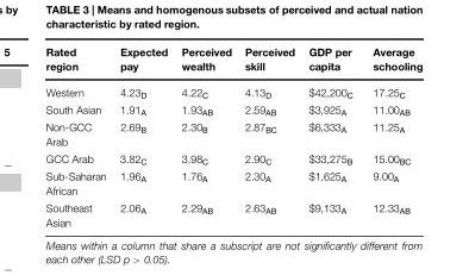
<table><thead><tr><td>Rated region</td><td>Expected pay</td><td>Perceived wealth</td><td>Perceived skill</td><td>GDP per capita</td><td>Average schooling</td></tr></thead><tbody><tr><td>Western</td><td>4.23<sub>D</sub></td><td>4.22<sub>C</sub></td><td>4.13<sub>D</sub></td><td>$42,200<sub>C</sub></td><td>17.25<sub>C</sub></td></tr><tr><td>South Asian</td><td>1.91<sub>A</sub></td><td>1.93<sub>AB</sub></td><td>2.59<sub>AB</sub></td><td>$3,925<sub>A</sub></td><td>11.00<sub>AB</sub></td></tr><tr><td>Non-GCC Arab</td><td>2.69<sub>B</sub></td><td>2.30<sub>B</sub></td><td>2.87<sub>BC</sub></td><td>$6,333<sub>A</sub></td><td>11.25<sub>A</sub></td></tr><tr><td>GCC Arab</td><td>3.82<sub>C</sub></td><td>3.98<sub>C</sub></td><td>2.90<sub>C</sub></td><td>$33,275<sub>B</sub></td><td>15.00<sub>BC</sub></td></tr><tr><td>Sub-Saharan African</td><td>1.96<sub>A</sub></td><td>1.76<sub>A</sub></td><td>2.30<sub>A</sub></td><td>$1,625<sub>A</sub></td><td>9.00<sub>A</sub></td></tr><tr><td>Southeast Asian</td><td>2.06<sub>A</sub></td><td>2.29<sub>AB</sub></td><td>2.63<sub>AB</sub></td><td>$9,133<sub>A</sub></td><td>12.33<sub>AB</sub></td></tr></tbody></table>